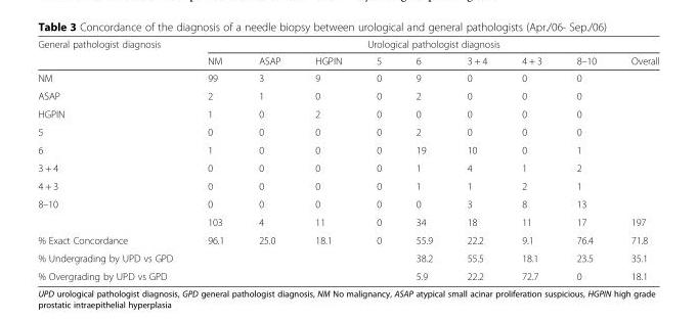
<table><thead><tr><td rowspan="2">General pathologist diagnosis</td><td colspan="9">Urological pathologist diagnosis</td></tr><tr><td>NM</td><td>ASAP</td><td>HGPIN</td><td>5</td><td>6</td><td>3 + 4</td><td>4 + 3</td><td>8–10</td><td>Overall</td></tr></thead><tbody><tr><td>NM</td><td>99</td><td>3</td><td>9</td><td>0</td><td>9</td><td>0</td><td>0</td><td>0</td><td></td></tr><tr><td>ASAP</td><td>2</td><td>1</td><td>0</td><td>0</td><td>2</td><td>0</td><td>0</td><td>0</td><td></td></tr><tr><td>HGPIN</td><td>1</td><td>0</td><td>2</td><td>0</td><td>0</td><td>0</td><td>0</td><td>0</td><td></td></tr><tr><td>5</td><td>0</td><td>0</td><td>0</td><td>0</td><td>2</td><td>0</td><td>0</td><td>0</td><td></td></tr><tr><td>6</td><td>1</td><td>0</td><td>0</td><td>0</td><td>19</td><td>10</td><td>0</td><td>1</td><td></td></tr><tr><td>3 + 4</td><td>0</td><td>0</td><td>0</td><td>0</td><td>1</td><td>4</td><td>1</td><td>2</td><td></td></tr><tr><td>4 + 3</td><td>0</td><td>0</td><td>0</td><td>0</td><td>1</td><td>1</td><td>2</td><td>1</td><td></td></tr><tr><td rowspan="2">8–10</td><td>0</td><td>0</td><td>0</td><td>0</td><td>0</td><td>3</td><td>8</td><td>13</td><td></td></tr><tr><td>103</td><td>4</td><td>11</td><td>0</td><td>34</td><td>18</td><td>11</td><td>17</td><td>197</td></tr><tr><td>% Exact Concordance</td><td>96.1</td><td>25.0</td><td>18.1</td><td>0</td><td>55.9</td><td>22.2</td><td>9.1</td><td>76.4</td><td>71.8</td></tr><tr><td>% Undergrading by UPD vs GPD</td><td></td><td></td><td></td><td></td><td>38.2</td><td>55.5</td><td>18.1</td><td>23.5</td><td>35.1</td></tr><tr><td>% Overgrading by UPD vs GPD</td><td></td><td></td><td></td><td></td><td>5.9</td><td>22.2</td><td>72.7</td><td>0</td><td>18.1</td></tr></tbody></table>